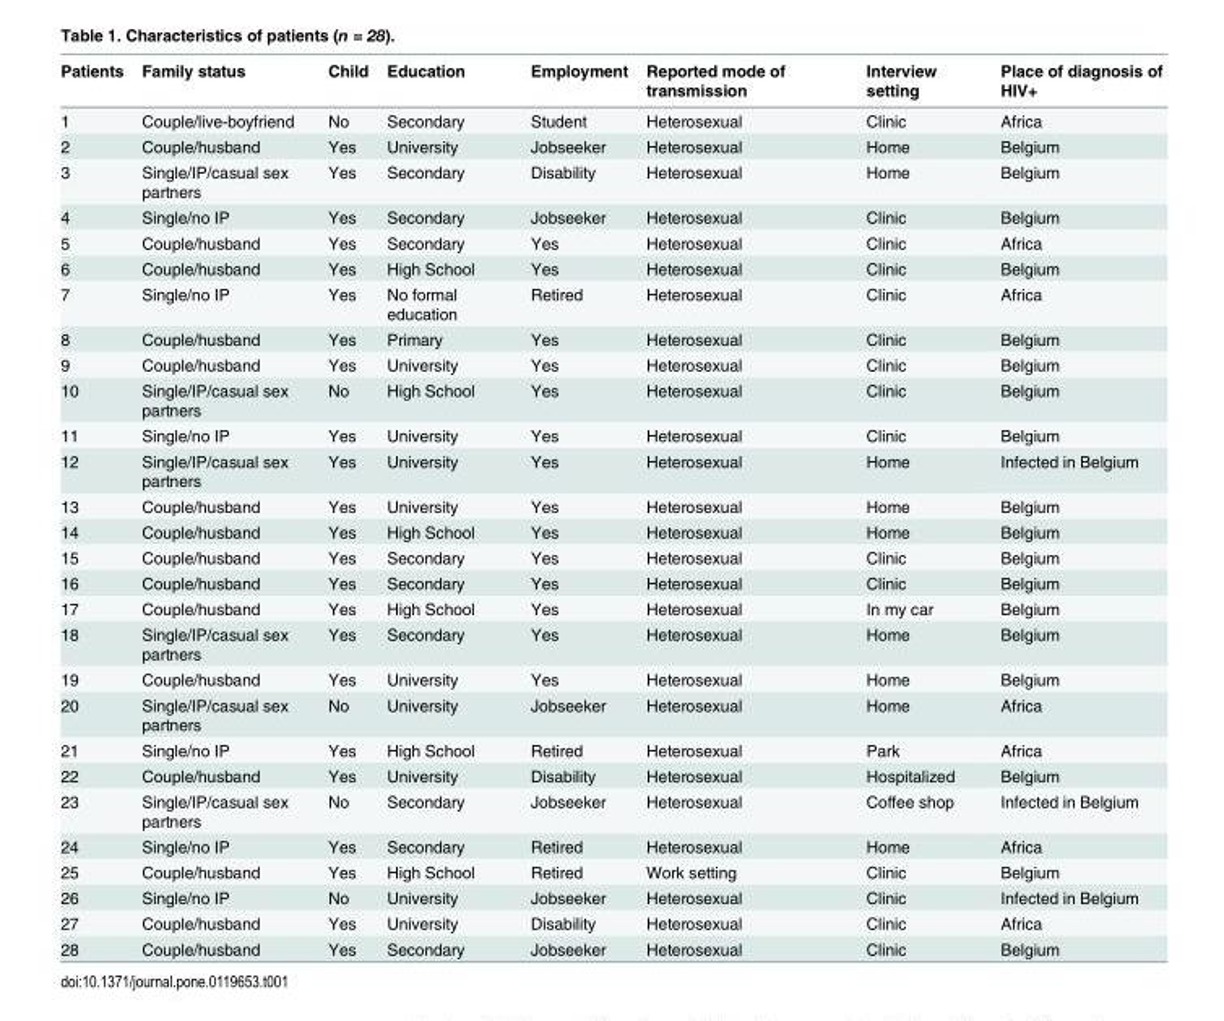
<table><thead><tr><td>Patients</td><td>Family status</td><td>Child</td><td>Education</td><td>Employment</td><td>Reported mode of transmission</td><td>Interview setting</td><td>Place of diagnosis of HIV+</td></tr></thead><tbody><tr><td>1</td><td>Couple/live-boyfriend</td><td>No</td><td>Secondary</td><td>Student</td><td>Heterosexual</td><td>Clinic</td><td>Africa</td></tr><tr><td>2</td><td>Couple/husband</td><td>Yes</td><td>University</td><td>Jobseeker</td><td>Heterosexual</td><td>Home</td><td>Belgium</td></tr><tr><td>3</td><td>Single/IP/casual sex partners</td><td>Yes</td><td>Secondary</td><td>Disability</td><td>Heterosexual</td><td>Home</td><td>Belgium</td></tr><tr><td>4</td><td>Single/no IP</td><td>Yes</td><td>Secondary</td><td>Jobseeker</td><td>Heterosexual</td><td>Clinic</td><td>Belgium</td></tr><tr><td>5</td><td>Couple/husband</td><td>Yes</td><td>Secondary</td><td>Yes</td><td>Heterosexual</td><td>Clinic</td><td>Africa</td></tr><tr><td>6</td><td>Couple/husband</td><td>Yes</td><td>High School</td><td>Yes</td><td>Heterosexual</td><td>Clinic</td><td>Belgium</td></tr><tr><td>7</td><td>Single/no IP</td><td>Yes</td><td>No formal education</td><td>Retired</td><td>Heterosexual</td><td>Clinic</td><td>Africa</td></tr><tr><td>8</td><td>Couple/husband</td><td>Yes</td><td>Primary</td><td>Yes</td><td>Heterosexual</td><td>Clinic</td><td>Belgium</td></tr><tr><td>9</td><td>Couple/husband</td><td>Yes</td><td>University</td><td>Yes</td><td>Heterosexual</td><td>Clinic</td><td>Belgium</td></tr><tr><td>10</td><td>Single/IP/casual sex partners</td><td>No</td><td>High School</td><td>Yes</td><td>Heterosexual</td><td>Clinic</td><td>Belgium</td></tr><tr><td>11</td><td>Single/no IP</td><td>Yes</td><td>University</td><td>Yes</td><td>Heterosexual</td><td>Clinic</td><td>Belgium</td></tr><tr><td>12</td><td>Single/IP/casual sex partners</td><td>Yes</td><td>University</td><td>Yes</td><td>Heterosexual</td><td>Home</td><td>Infected in Belgium</td></tr><tr><td>13</td><td>Couple/husband</td><td>Yes</td><td>University</td><td>Yes</td><td>Heterosexual</td><td>Home</td><td>Belgium</td></tr><tr><td>14</td><td>Couple/husband</td><td>Yes</td><td>High School</td><td>Yes</td><td>Heterosexual</td><td>Home</td><td>Belgium</td></tr><tr><td>15</td><td>Couple/husband</td><td>Yes</td><td>Secondary</td><td>Yes</td><td>Heterosexual</td><td>Clinic</td><td>Belgium</td></tr><tr><td>16</td><td>Couple/husband</td><td>Yes</td><td>Secondary</td><td>Yes</td><td>Heterosexual</td><td>Clinic</td><td>Belgium</td></tr><tr><td>17</td><td>Couple/husband</td><td>Yes</td><td>High School</td><td>Yes</td><td>Heterosexual</td><td>In my car</td><td>Belgium</td></tr><tr><td>18</td><td>Single/IP/casual sex partners</td><td>Yes</td><td>Secondary</td><td>Yes</td><td>Heterosexual</td><td>Home</td><td>Belgium</td></tr><tr><td>19</td><td>Couple/husband</td><td>Yes</td><td>University</td><td>Yes</td><td>Heterosexual</td><td>Home</td><td>Belgium</td></tr><tr><td>20</td><td>Single/IP/casual sex partners</td><td>No</td><td>University</td><td>Jobseeker</td><td>Heterosexual</td><td>Home</td><td>Africa</td></tr><tr><td>21</td><td>Single/no IP</td><td>Yes</td><td>High School</td><td>Retired</td><td>Heterosexual</td><td>Park</td><td>Africa</td></tr><tr><td>22</td><td>Couple/husband</td><td>Yes</td><td>University</td><td>Disability</td><td>Heterosexual</td><td>Hospitalized</td><td>Belgium</td></tr><tr><td>23</td><td>Single/IP/casual sex partners</td><td>No</td><td>Secondary</td><td>Jobseeker</td><td>Heterosexual</td><td>Coffee shop</td><td>Infected in Belgium</td></tr><tr><td>24</td><td>Single/no IP</td><td>Yes</td><td>Secondary</td><td>Retired</td><td>Heterosexual</td><td>Home</td><td>Africa</td></tr><tr><td>25</td><td>Couple/husband</td><td>Yes</td><td>High School</td><td>Retired</td><td>Work setting</td><td>Clinic</td><td>Belgium</td></tr><tr><td>26</td><td>Single/no IP</td><td>No</td><td>University</td><td>Jobseeker</td><td>Heterosexual</td><td>Clinic</td><td>Infected in Belgium</td></tr><tr><td>27</td><td>Couple/husband</td><td>Yes</td><td>University</td><td>Disability</td><td>Heterosexual</td><td>Clinic</td><td>Africa</td></tr><tr><td>28</td><td>Couple/husband</td><td>Yes</td><td>Secondary</td><td>Jobseeker</td><td>Heterosexual</td><td>Clinic</td><td>Belgium</td></tr></tbody></table>